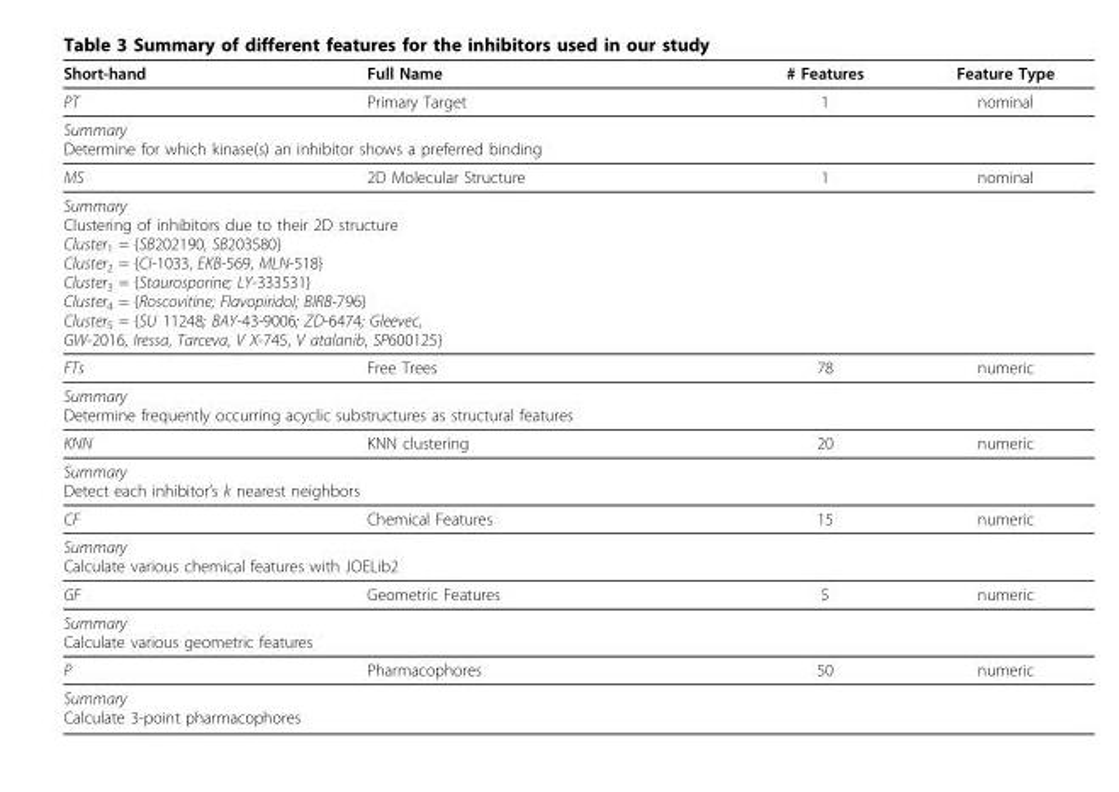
<table><thead><tr><td>Short-hand</td><td>Full Name</td><td># Features</td><td>Feature Type</td></tr></thead><tbody><tr><td>PT</td><td>Primary Target</td><td>1</td><td>nominal</td></tr><tr><td colspan="4">Summary Determine for which kinase(s) an inhibitor shows a preferred binding</td></tr><tr><td>MS</td><td>2D Molecular Structure</td><td>1</td><td>nominal</td></tr><tr><td colspan="4">Summary Clustering of inhibitors due to their 2D structure Cluster<sub>1</sub> = {SB202190, SB203580} Cluster<sub>2</sub> = {CI-1033, EKB-569, MLN-518} Cluster<sub>3</sub> = {Staurosporine; LY-333531} Cluster<sub>4</sub> = {Roscovitine; Flavopiridol; BIRB-796} Cluster<sub>5</sub> = {SU 11248; BAY-43-9006; ZD-6474; Gleevec, GW-2016, Iressa, Tarceva, V X-745, V atalanib, SP600125}</td></tr><tr><td>FTs</td><td>Free Trees</td><td>78</td><td>numeric</td></tr><tr><td colspan="4">Summary Determine frequently occurring acyclic substructures as structural features</td></tr><tr><td>KNN</td><td>KNN clustering</td><td>20</td><td>numeric</td></tr><tr><td colspan="4">Summary Detect each inhibitor’s k nearest neighbors</td></tr><tr><td>CF</td><td>Chemical Features</td><td>15</td><td>numeric</td></tr><tr><td colspan="4">Summary Calculate various chemical features with JOELib2</td></tr><tr><td>GF</td><td>Geometric Features</td><td>5</td><td>numeric</td></tr><tr><td colspan="4">Summary Calculate various geometric features</td></tr><tr><td>P</td><td>Pharmacophores</td><td>50</td><td>numeric</td></tr><tr><td colspan="2">Summary Calculate 3-point pharmacophores</td><td></td><td></td></tr></tbody></table>